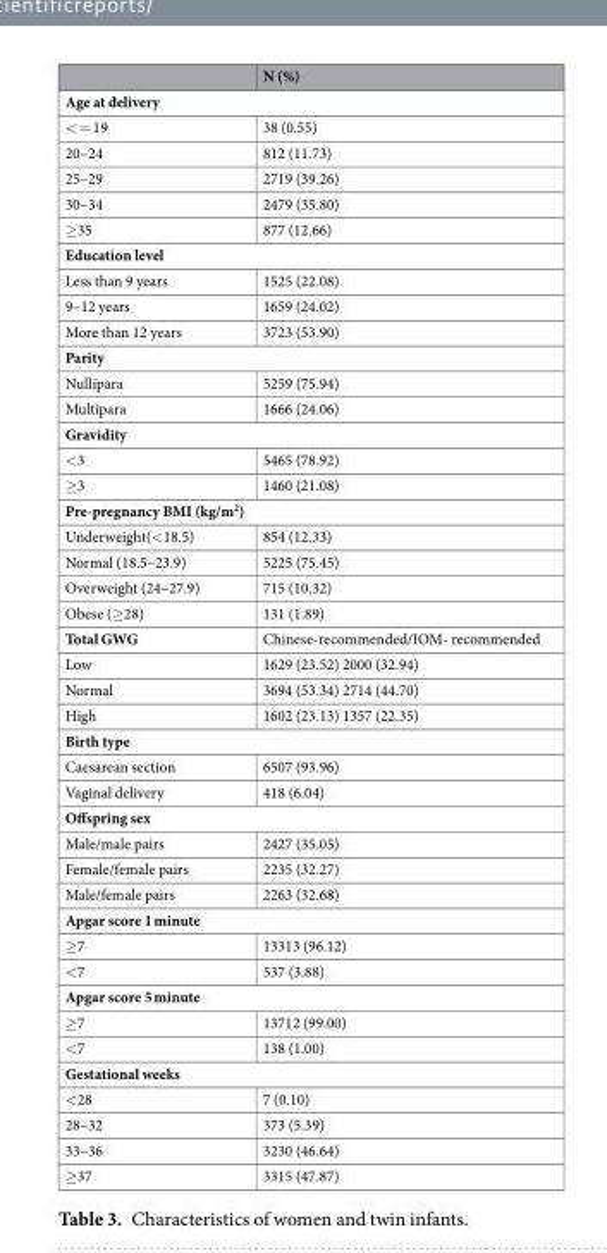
<table><thead><tr><td></td><td>N (%)</td></tr></thead><tbody><tr><td colspan="2">Age at delivery</td></tr><tr><td>&lt; = 19</td><td>38 (0.55)</td></tr><tr><td>20–24</td><td>812 (11.73)</td></tr><tr><td>25–29</td><td>2719 (39.26)</td></tr><tr><td>30–34</td><td>2479 (35.80)</td></tr><tr><td>≥35</td><td>877 (12.66)</td></tr><tr><td colspan="2">Education level</td></tr><tr><td>Less than 9 years</td><td>1525 (22.08)</td></tr><tr><td>9–12 years</td><td>1659 (24.02)</td></tr><tr><td>More than 12 years</td><td>3723 (53.90)</td></tr><tr><td colspan="2">Parity</td></tr><tr><td>Nullipara</td><td>5259 (75.94)</td></tr><tr><td>Multipara</td><td>1666 (24.06)</td></tr><tr><td colspan="2">Gravidity</td></tr><tr><td>&lt;3</td><td>5465 (78.92)</td></tr><tr><td>≥3</td><td>1460 (21.08)</td></tr><tr><td colspan="2">Pre-pregnancy BMI (kg/m<sup>2</sup>)</td></tr><tr><td>Underweight(&lt;18.5)</td><td>854 (12.33)</td></tr><tr><td>Normal (18.5–23.9)</td><td>5225 (75.45)</td></tr><tr><td>Overweight (24–27.9)</td><td>715 (10.32)</td></tr><tr><td>Obese (≥28)</td><td>131 (1.89)</td></tr><tr><td>Total GWG</td><td>Chinese-recommended/IOM- recommended</td></tr><tr><td>Low</td><td>1629 (23.52) 2000 (32.94)</td></tr><tr><td>Normal</td><td>3694 (53.34) 2714 (44.70)</td></tr><tr><td>High</td><td>1602 (23.13) 1357 (22.35)</td></tr><tr><td colspan="2">Birth type</td></tr><tr><td>Caesarean section</td><td>6507 (93.96)</td></tr><tr><td>Vaginal delivery</td><td>418 (6.04)</td></tr><tr><td colspan="2">Offspring sex</td></tr><tr><td>Male/male pairs</td><td>2427 (35.05)</td></tr><tr><td>Female/female pairs</td><td>2235 (32.27)</td></tr><tr><td>Male/female pairs</td><td>2263 (32.68)</td></tr><tr><td colspan="2">Apgar score 1 minute</td></tr><tr><td>≥7</td><td>13313 (96.12)</td></tr><tr><td>&lt;7</td><td>537 (3.88)</td></tr><tr><td colspan="2">Apgar score 5 minute</td></tr><tr><td>≥7</td><td>13712 (99.00)</td></tr><tr><td>&lt;7</td><td>138 (1.00)</td></tr><tr><td colspan="2">Gestational weeks</td></tr><tr><td>&lt;28</td><td>7 (0.10)</td></tr><tr><td>28–32</td><td>373 (5.39)</td></tr><tr><td>33–36</td><td>3230 (46.64)</td></tr><tr><td>≥37</td><td>3315 (47.87)</td></tr></tbody></table>